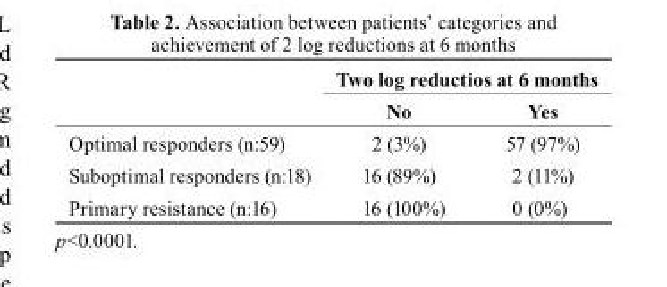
<table><thead><tr><td rowspan="2"></td><td colspan="2">Two log reductios at 6 months</td></tr><tr><td>No</td><td>Yes</td></tr></thead><tbody><tr><td>Optimal responders (n:59)</td><td>2 (3%)</td><td>57 (97%)</td></tr><tr><td>Suboptimal responders (n:18)</td><td>16 (89%)</td><td>2 (11%)</td></tr><tr><td>Primary resistance (n:16)</td><td>16 (100%)</td><td>0 (0%)</td></tr></tbody></table>